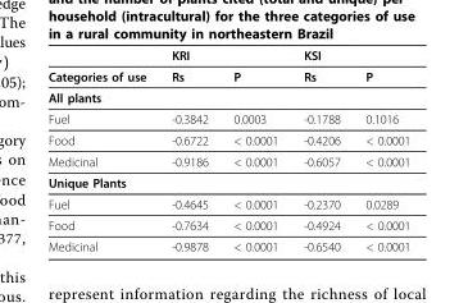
<table><thead><tr><td rowspan="2">Categories of use</td><td colspan="2">KRI</td><td colspan="2">KSI</td></tr><tr><td>Rs</td><td>P</td><td>Rs</td><td>P</td></tr></thead><tbody><tr><td colspan="5">All plants</td></tr><tr><td>Fuel</td><td>-0.3842</td><td>0.0003</td><td>-0.1788</td><td>0.1016</td></tr><tr><td>Food</td><td>-0.6722</td><td>&lt; 0.0001</td><td>-0.4206</td><td>&lt; 0.0001</td></tr><tr><td>Medicinal</td><td>-0.9186</td><td>&lt; 0.0001</td><td>-0.6057</td><td>&lt; 0.0001</td></tr><tr><td colspan="5">Unique Plants</td></tr><tr><td>Fuel</td><td>-0.4645</td><td>&lt; 0.0001</td><td>-0.2370</td><td>0.0289</td></tr><tr><td>Food</td><td>-0.7634</td><td>&lt; 0.0001</td><td>-0.4924</td><td>&lt; 0.0001</td></tr><tr><td>Medicinal</td><td>-0.9878</td><td>&lt; 0.0001</td><td>-0.6540</td><td>&lt; 0.0001</td></tr></tbody></table>